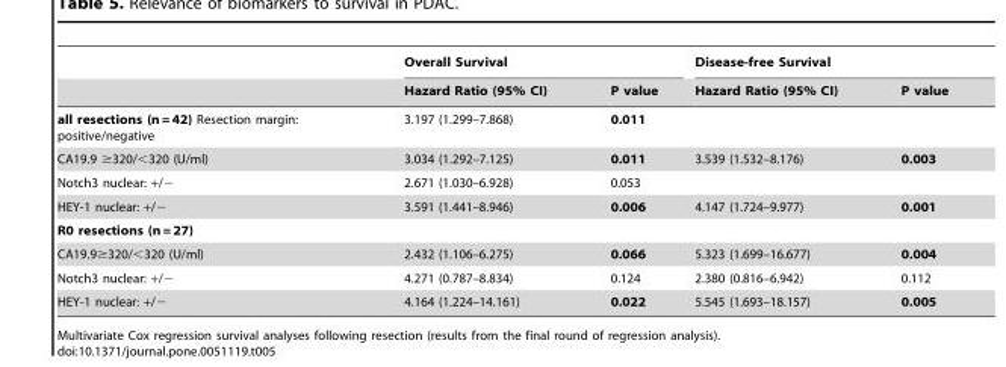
<table><thead><tr><td rowspan="2"></td><td colspan="2">Overall Survival</td><td colspan="2">Disease-free Survival</td></tr><tr><td>Hazard Ratio (95% CI)</td><td>P value</td><td>Hazard Ratio (95% CI)</td><td>P value</td></tr></thead><tbody><tr><td>all resections (n = 42) Resection margin: positive/negative</td><td>3.197 (1.299–7.868)</td><td>0.011</td><td></td><td></td></tr><tr><td>CA19.9 ≥320/&lt;320 (U/ml)</td><td>3.034 (1.292–7.125)</td><td>0.011</td><td>3.539 (1.532–8.176)</td><td>0.003</td></tr><tr><td>Notch3 nuclear: +/−</td><td>2.671 (1.030–6.928)</td><td>0.053</td><td></td><td></td></tr><tr><td>HEY-1 nuclear: +/−</td><td>3.591 (1.441–8.946)</td><td>0.006</td><td>4.147 (1.724–9.977)</td><td>0.001</td></tr><tr><td colspan="5">R0 resections (n = 27)</td></tr><tr><td>CA19.9≥320/&lt;320 (U/ml)</td><td>2.432 (1.106–6.275)</td><td>0.066</td><td>5.323 (1.699–16.677)</td><td>0.004</td></tr><tr><td>Notch3 nuclear: +/−</td><td>4.271 (0.787–8.834)</td><td>0.124</td><td>2.380 (0.816–6.942)</td><td>0.112</td></tr><tr><td>HEY-1 nuclear: +/−</td><td>4.164 (1.224–14.161)</td><td>0.022</td><td>5.545 (1.693–18.157)</td><td>0.005</td></tr></tbody></table>